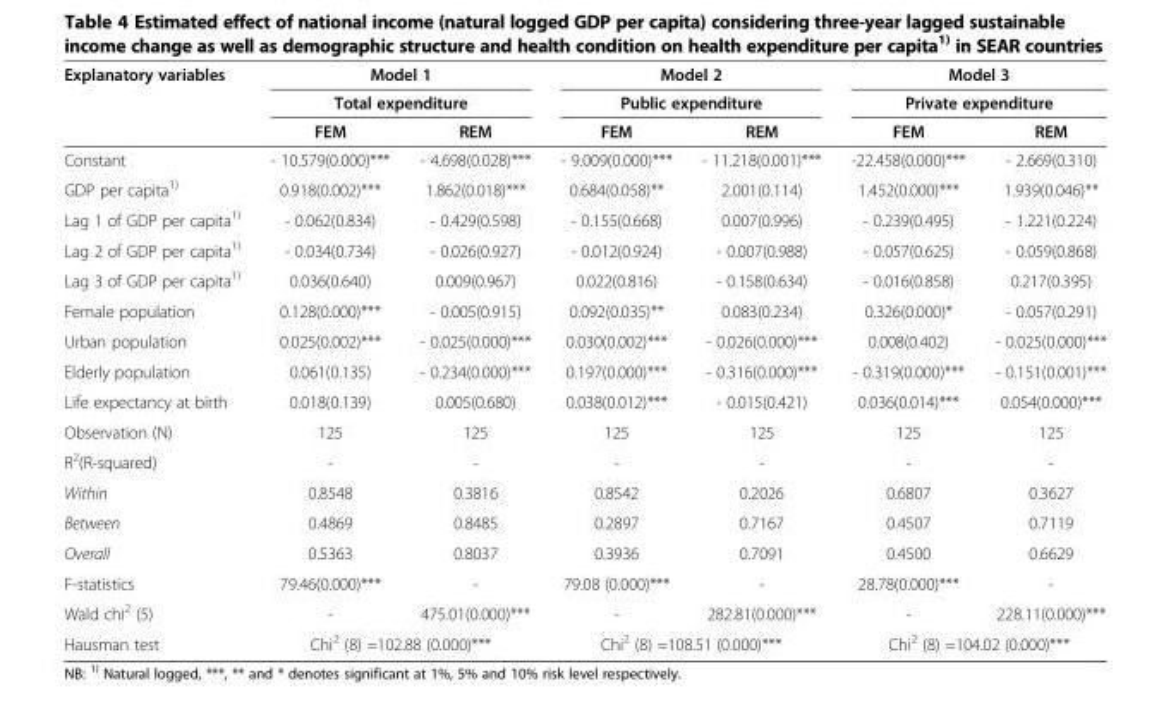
<table><thead><tr><td rowspan="3">Explanatory variables</td><td rowspan="2" colspan="2">Model 1 Total expenditure</td><td rowspan="2" colspan="2">Model 2 Public expenditure</td><td rowspan="2" colspan="2">Model 3 Private expenditure</td></tr><tr></tr><tr><td>FEM</td><td>REM</td><td>FEM</td><td>REM</td><td>FEM</td><td>REM</td></tr></thead><tbody><tr><td>Constant</td><td>- 10.579(0.000)***</td><td>- 4.698(0.028)***</td><td>- 9.009(0.000)***</td><td>- 11.218(0.001)***</td><td>-22.458(0.000)***</td><td>- 2.669(0.310)</td></tr><tr><td>GDP per capita<sup>1)</sup></td><td>0.918(0.002)***</td><td>1.862(0.018)***</td><td>0.684(0.058)**</td><td>2.001(0.114)</td><td>1.452(0.000)***</td><td>1.939(0.046)**</td></tr><tr><td>Lag 1 of GDP per capita<sup>1)</sup></td><td>- 0.062(0.834)</td><td>- 0.429(0.598)</td><td>- 0.155(0.668)</td><td>0.007(0.996)</td><td>- 0.239(0.495)</td><td>- 1.221(0.224)</td></tr><tr><td>Lag 2 of GDP per capita<sup>1)</sup></td><td>- 0.034(0.734)</td><td>- 0.026(0.927)</td><td>- 0.012(0.924)</td><td>- 0.007(0.988)</td><td>- 0.057(0.625)</td><td>- 0.059(0.868)</td></tr><tr><td>Lag 3 of GDP per capita<sup>1)</sup></td><td>0.036(0.640)</td><td>0.009(0.967)</td><td>0.022(0.816)</td><td>- 0.158(0.634)</td><td>- 0.016(0.858)</td><td>0.217(0.395)</td></tr><tr><td>Female population</td><td>0.128(0.000)***</td><td>- 0.005(0.915)</td><td>0.092(0.035)**</td><td>0.083(0.234)</td><td>0.326(0.000)*</td><td>- 0.057(0.291)</td></tr><tr><td>Urban population</td><td>0.025(0.002)***</td><td>- 0.025(0.000)***</td><td>0.030(0.002)***</td><td>- 0.026(0.000)***</td><td>0.008(0.402)</td><td>- 0.025(0.000)***</td></tr><tr><td>Elderly population</td><td>0.061(0.135)</td><td>- 0.234(0.000)***</td><td>0.197(0.000)***</td><td>- 0.316(0.000)***</td><td>- 0.319(0.000)***</td><td>- 0.151(0.001)***</td></tr><tr><td>Life expectancy at birth</td><td>0.018(0.139)</td><td>0.005(0.680)</td><td>0.038(0.012)***</td><td>- 0.015(0.421)</td><td>0.036(0.014)***</td><td>0.054(0.000)***</td></tr><tr><td>Observation (N)</td><td>125</td><td>125</td><td>125</td><td>125</td><td>125</td><td>125</td></tr><tr><td>R<sup>2</sup>(R-squared)</td><td>-</td><td>-</td><td>-</td><td>-</td><td>-</td><td>-</td></tr><tr><td>Within</td><td>0.8548</td><td>0.3816</td><td>0.8542</td><td>0.2026</td><td>0.6807</td><td>0.3627</td></tr><tr><td>Between</td><td>0.4869</td><td>0.8485</td><td>0.2897</td><td>0.7167</td><td>0.4507</td><td>0.7119</td></tr><tr><td>Overall</td><td>0.5363</td><td>0.8037</td><td>0.3936</td><td>0.7091</td><td>0.4500</td><td>0.6629</td></tr><tr><td>F-statistics</td><td>79.46(0.000)***</td><td>-</td><td>79.08 (0.000)***</td><td>-</td><td>28.78(0.000)***</td><td>-</td></tr><tr><td>Wald chi<sup>2</sup> (5)</td><td>-</td><td>475.01(0.000)***</td><td>-</td><td>282.81(0.000)***</td><td>-</td><td>228.11(0.000)***</td></tr><tr><td>Hausman test</td><td colspan="2">Chi<sup>2</sup> (8) =102.88 (0.000)***</td><td colspan="2">Chi<sup>2</sup> (8) =108.51 (0.000)***</td><td colspan="2">Chi<sup>2</sup> (8) =104.02 (0.000)***</td></tr></tbody></table>